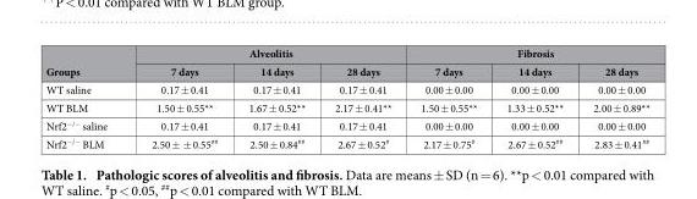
<table><thead><tr><td rowspan="2">Groups</td><td colspan="3">Alveolitis</td><td colspan="3">Fibrosis</td></tr><tr><td>7 days</td><td>14 days</td><td>28 days</td><td>7 days</td><td>14 days</td><td>28 days</td></tr></thead><tbody><tr><td>WT saline</td><td>0.17 ± 0.41</td><td>0.17 ± 0.41</td><td>0.17 ± 0.41</td><td>0.00 ± 0.00</td><td>0.00 ± 0.00</td><td>0.00 ± 0.00</td></tr><tr><td>WT BLM</td><td>1.50 ± 0.55**</td><td>1.67 ± 0.52**</td><td>2.17 ± 0.41**</td><td>1.50 ± 0.55**</td><td>1.33 ± 0.52**</td><td>2.00 ± 0.89**</td></tr><tr><td>Nrf2<sup>−/−</sup> saline</td><td>0.17 ± 0.41</td><td>0.17 ± 0.41</td><td>0.17 ± 0.41</td><td>0.00 ± 0.00</td><td>0.00 ± 0.00</td><td>0.00 ± 0.00</td></tr><tr><td>Nrf2<sup>−/−</sup> BLM</td><td>2.50 ± ± 0.55<sup>##</sup></td><td>2.50 ± 0.84<sup>##</sup></td><td>2.67 ± 0.52<sup>#</sup></td><td>2.17 ± 0.75<sup>#</sup></td><td>2.67 ± 0.52<sup>##</sup></td><td>2.83 ± 0.41<sup>##</sup></td></tr></tbody></table>